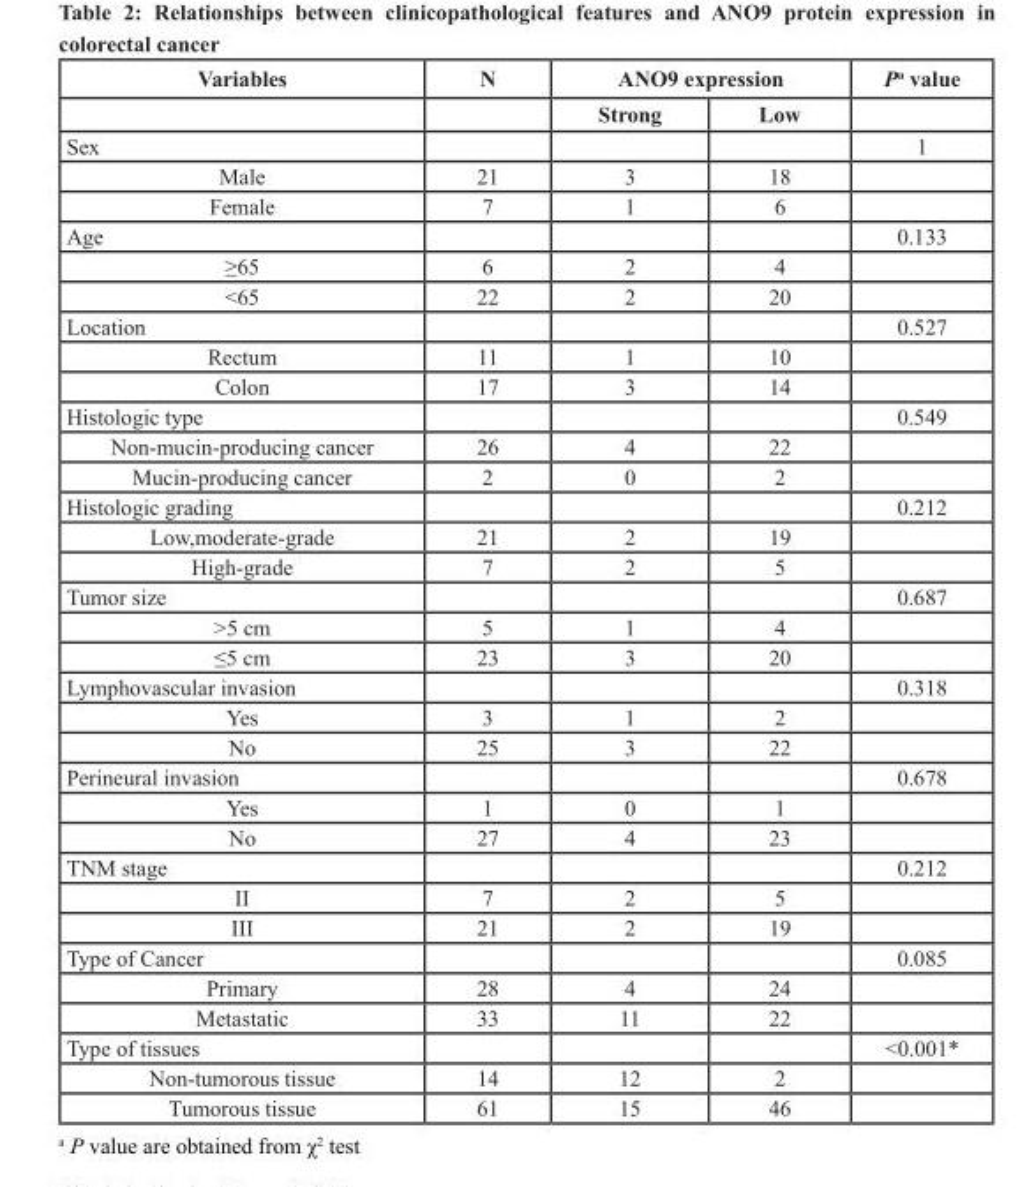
<table><thead><tr><td rowspan="2">Variables</td><td rowspan="2">N</td><td colspan="2">ANO9 expression</td><td rowspan="2">P<sup>a</sup> value</td></tr><tr><td>Strong</td><td>Low</td></tr></thead><tbody><tr><td>Sex</td><td></td><td></td><td></td><td>1</td></tr><tr><td>Male</td><td>21</td><td>3</td><td>18</td><td></td></tr><tr><td>Female</td><td>7</td><td>1</td><td>6</td><td></td></tr><tr><td>Age</td><td></td><td></td><td></td><td>0.133</td></tr><tr><td>≥65</td><td>6</td><td>2</td><td>4</td><td></td></tr><tr><td>&lt;65</td><td>22</td><td>2</td><td>20</td><td></td></tr><tr><td>Location</td><td></td><td></td><td></td><td>0.527</td></tr><tr><td>Rectum</td><td>11</td><td>1</td><td>10</td><td></td></tr><tr><td>Colon</td><td>17</td><td>3</td><td>14</td><td></td></tr><tr><td>Histologic type</td><td></td><td></td><td></td><td>0.549</td></tr><tr><td>Non-mucin-producing cancer</td><td>26</td><td>4</td><td>22</td><td></td></tr><tr><td>Mucin-producing cancer</td><td>2</td><td>0</td><td>2</td><td></td></tr><tr><td>Histologic grading</td><td></td><td></td><td></td><td>0.212</td></tr><tr><td>Low,moderate-grade</td><td>21</td><td>2</td><td>19</td><td></td></tr><tr><td>High-grade</td><td>7</td><td>2</td><td>5</td><td></td></tr><tr><td>Tumor size</td><td></td><td></td><td></td><td>0.687</td></tr><tr><td>&gt;5 cm</td><td>5</td><td>1</td><td>4</td><td></td></tr><tr><td>≤5 cm</td><td>23</td><td>3</td><td>20</td><td></td></tr><tr><td>Lymphovascular invasion</td><td></td><td></td><td></td><td>0.318</td></tr><tr><td>Yes</td><td>3</td><td>1</td><td>2</td><td></td></tr><tr><td>No</td><td>25</td><td>3</td><td>22</td><td></td></tr><tr><td>Perineural invasion</td><td></td><td></td><td></td><td>0.678</td></tr><tr><td>Yes</td><td>1</td><td>0</td><td>1</td><td></td></tr><tr><td>No</td><td>27</td><td>4</td><td>23</td><td></td></tr><tr><td>TNM stage</td><td></td><td></td><td></td><td>0.212</td></tr><tr><td>II</td><td>7</td><td>2</td><td>5</td><td></td></tr><tr><td>III</td><td>21</td><td>2</td><td>19</td><td></td></tr><tr><td>Type of Cancer</td><td></td><td></td><td></td><td>0.085</td></tr><tr><td>Primary</td><td>28</td><td>4</td><td>24</td><td></td></tr><tr><td>Metastatic</td><td>33</td><td>11</td><td>22</td><td></td></tr><tr><td>Type of tissues</td><td></td><td></td><td></td><td>&lt;0.001*</td></tr><tr><td>Non-tumorous tissue</td><td>14</td><td>12</td><td>2</td><td></td></tr><tr><td>Tumorous tissue</td><td>61</td><td>15</td><td>46</td><td></td></tr></tbody></table>